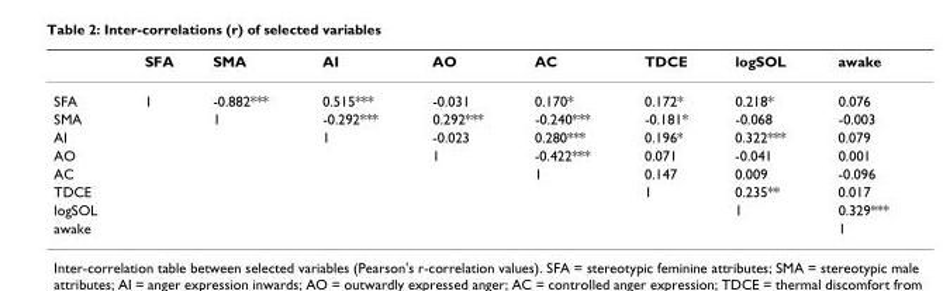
<table><thead><tr><td></td><td>SFA</td><td>SMA</td><td>AI</td><td>AO</td><td>AC</td><td>TDCE</td><td>logSOL</td><td>awake</td></tr></thead><tbody><tr><td>SFA</td><td>1</td><td>-0.882***</td><td>0.515***</td><td>-0.031</td><td>0.170*</td><td>0.172*</td><td>0.218*</td><td>0.076</td></tr><tr><td>SMA</td><td></td><td>1</td><td>-0.292***</td><td>0.292***</td><td>-0.240***</td><td>-0.181*</td><td>-0.068</td><td>-0.003</td></tr><tr><td>AI</td><td></td><td></td><td>1</td><td>-0.023</td><td>0.280***</td><td>0.196*</td><td>0.322***</td><td>0.079</td></tr><tr><td>AO</td><td></td><td></td><td></td><td>1</td><td>-0.422***</td><td>0.071</td><td>-0.041</td><td>0.001</td></tr><tr><td>AC</td><td></td><td></td><td></td><td></td><td>1</td><td>0.147</td><td>0.009</td><td>-0.096</td></tr><tr><td>TDCE</td><td></td><td></td><td></td><td></td><td></td><td>1</td><td>0.235**</td><td>0.017</td></tr><tr><td>logSOL</td><td></td><td></td><td></td><td></td><td></td><td></td><td>1</td><td>0.329***</td></tr><tr><td>awake</td><td></td><td></td><td></td><td></td><td></td><td></td><td></td><td>1</td></tr></tbody></table>